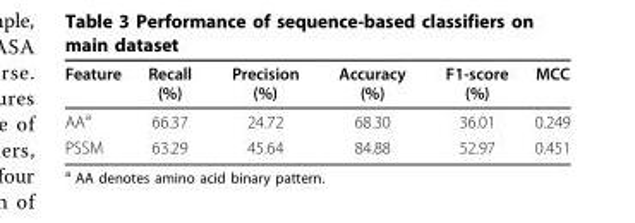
<table><thead><tr><td>Feature</td><td>Recall (%)</td><td>Precision (%)</td><td>Accuracy (%)</td><td>F1-score (%)</td><td>MCC</td></tr></thead><tbody><tr><td>AA<sup>a</sup></td><td>66.37</td><td>24.72</td><td>68.30</td><td>36.01</td><td>0.249</td></tr><tr><td>PSSM</td><td>63.29</td><td>45.64</td><td>84.88</td><td>52.97</td><td>0.451</td></tr></tbody></table>